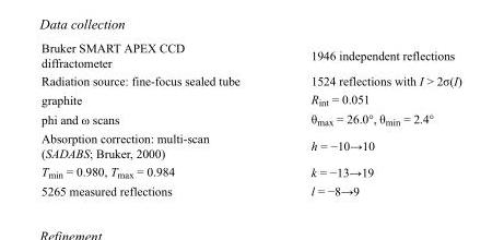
<table><tbody><tr><td>Bruker SMART APEX CCD diffractometer</td><td>1946 independent reflections</td></tr><tr><td>Radiation source: fine-focus sealed tube</td><td>1524 reflections with I &gt; 2σ(I)</td></tr><tr><td>graphite</td><td>R<sub>int</sub> = 0.051</td></tr><tr><td>phi and ω scans</td><td>θ<sub>max</sub> = 26.0°, θ<sub>min</sub> = 2.4°</td></tr><tr><td>Absorption correction: multi-scan (SADABS; Bruker, 2000)</td><td>h = −10→10</td></tr><tr><td>T<sub>min</sub> = 0.980, T<sub>max</sub> = 0.984</td><td>k = −13→19</td></tr><tr><td>5265 measured reflections</td><td>l = −8→9</td></tr></tbody></table>